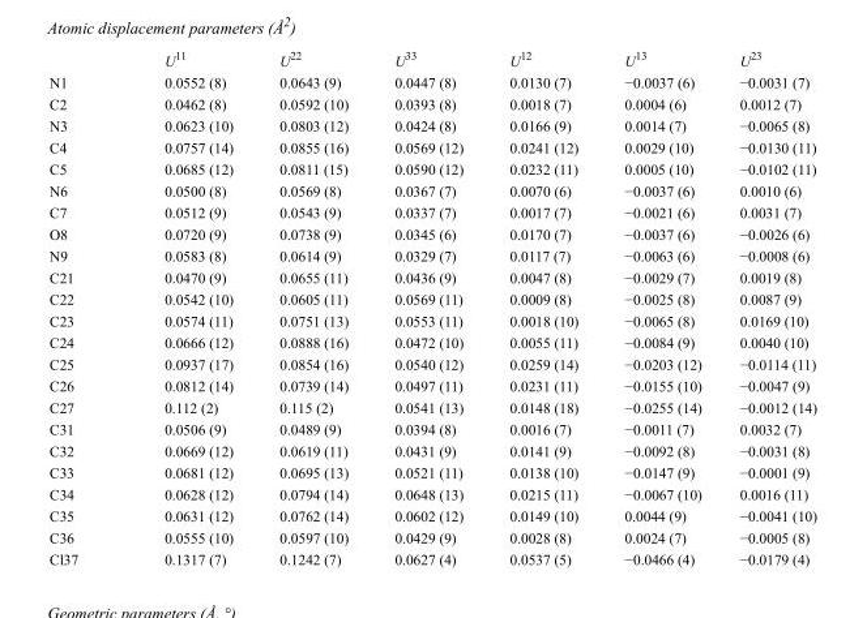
<table><thead><tr><td></td><td>U<sup>11</sup></td><td>U<sup>22</sup></td><td>U<sup>33</sup></td><td>U<sup>12</sup></td><td>U<sup>13</sup></td><td>U<sup>23</sup></td></tr></thead><tbody><tr><td>N1</td><td>0.0552 (8)</td><td>0.0643 (9)</td><td>0.0447 (8)</td><td>0.0130 (7)</td><td>−0.0037 (6)</td><td>−0.0031 (7)</td></tr><tr><td>C2</td><td>0.0462 (8)</td><td>0.0592 (10)</td><td>0.0393 (8)</td><td>0.0018 (7)</td><td>0.0004 (6)</td><td>0.0012 (7)</td></tr><tr><td>N3</td><td>0.0623 (10)</td><td>0.0803 (12)</td><td>0.0424 (8)</td><td>0.0166 (9)</td><td>0.0014 (7)</td><td>−0.0065 (8)</td></tr><tr><td>C4</td><td>0.0757 (14)</td><td>0.0855 (16)</td><td>0.0569 (12)</td><td>0.0241 (12)</td><td>0.0029 (10)</td><td>−0.0130 (11)</td></tr><tr><td>C5</td><td>0.0685 (12)</td><td>0.0811 (15)</td><td>0.0590 (12)</td><td>0.0232 (11)</td><td>0.0005 (10)</td><td>−0.0102 (11)</td></tr><tr><td>N6</td><td>0.0500 (8)</td><td>0.0569 (8)</td><td>0.0367 (7)</td><td>0.0070 (6)</td><td>−0.0037 (6)</td><td>0.0010 (6)</td></tr><tr><td>C7</td><td>0.0512 (9)</td><td>0.0543 (9)</td><td>0.0337 (7)</td><td>0.0017 (7)</td><td>−0.0021 (6)</td><td>0.0031 (7)</td></tr><tr><td>O8</td><td>0.0720 (9)</td><td>0.0738 (9)</td><td>0.0345 (6)</td><td>0.0170 (7)</td><td>−0.0037 (6)</td><td>−0.0026 (6)</td></tr><tr><td>N9</td><td>0.0583 (8)</td><td>0.0614 (9)</td><td>0.0329 (7)</td><td>0.0117 (7)</td><td>−0.0063 (6)</td><td>−0.0008 (6)</td></tr><tr><td>C21</td><td>0.0470 (9)</td><td>0.0655 (11)</td><td>0.0436 (9)</td><td>0.0047 (8)</td><td>−0.0029 (7)</td><td>0.0019 (8)</td></tr><tr><td>C22</td><td>0.0542 (10)</td><td>0.0605 (11)</td><td>0.0569 (11)</td><td>0.0009 (8)</td><td>−0.0025 (8)</td><td>0.0087 (9)</td></tr><tr><td>C23</td><td>0.0574 (11)</td><td>0.0751 (13)</td><td>0.0553 (11)</td><td>0.0018 (10)</td><td>−0.0065 (8)</td><td>0.0169 (10)</td></tr><tr><td>C24</td><td>0.0666 (12)</td><td>0.0888 (16)</td><td>0.0472 (10)</td><td>0.0055 (11)</td><td>−0.0084 (9)</td><td>0.0040 (10)</td></tr><tr><td>C25</td><td>0.0937 (17)</td><td>0.0854 (16)</td><td>0.0540 (12)</td><td>0.0259 (14)</td><td>−0.0203 (12)</td><td>−0.0114 (11)</td></tr><tr><td>C26</td><td>0.0812 (14)</td><td>0.0739 (14)</td><td>0.0497 (11)</td><td>0.0231 (11)</td><td>−0.0155 (10)</td><td>−0.0047 (9)</td></tr><tr><td>C27</td><td>0.112 (2)</td><td>0.115 (2)</td><td>0.0541 (13)</td><td>0.0148 (18)</td><td>−0.0255 (14)</td><td>−0.0012 (14)</td></tr><tr><td>C31</td><td>0.0506 (9)</td><td>0.0489 (9)</td><td>0.0394 (8)</td><td>0.0016 (7)</td><td>−0.0011 (7)</td><td>0.0032 (7)</td></tr><tr><td>C32</td><td>0.0669 (12)</td><td>0.0619 (11)</td><td>0.0431 (9)</td><td>0.0141 (9)</td><td>−0.0092 (8)</td><td>−0.0031 (8)</td></tr><tr><td>C33</td><td>0.0681 (12)</td><td>0.0695 (13)</td><td>0.0521 (11)</td><td>0.0138 (10)</td><td>−0.0147 (9)</td><td>−0.0001 (9)</td></tr><tr><td>C34</td><td>0.0628 (12)</td><td>0.0794 (14)</td><td>0.0648 (13)</td><td>0.0215 (11)</td><td>−0.0067 (10)</td><td>0.0016 (11)</td></tr><tr><td>C35</td><td>0.0631 (12)</td><td>0.0762 (14)</td><td>0.0602 (12)</td><td>0.0149 (10)</td><td>0.0044 (9)</td><td>−0.0041 (10)</td></tr><tr><td>C36</td><td>0.0555 (10)</td><td>0.0597 (10)</td><td>0.0429 (9)</td><td>0.0028 (8)</td><td>0.0024 (7)</td><td>−0.0005 (8)</td></tr><tr><td>Cl37</td><td>0.1317 (7)</td><td>0.1242 (7)</td><td>0.0627 (4)</td><td>0.0537 (5)</td><td>−0.0466 (4)</td><td>−0.0179 (4)</td></tr></tbody></table>